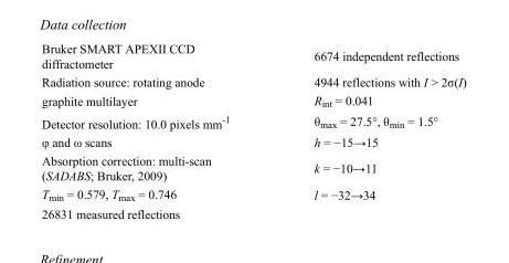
<table><tbody><tr><td>Bruker SMART APEXII CCD diffractometer</td><td>6674 independent reflections</td></tr><tr><td>Radiation source: rotating anode</td><td>4944 reflections with I &gt; 2σ(I)</td></tr><tr><td>graphite multilayer</td><td>R<sub>int</sub> = 0.041</td></tr><tr><td>Detector resolution: 10.0 pixels mm<sup>-1</sup></td><td>θ<sub>max</sub> = 27.5°, θ<sub>min</sub> = 1.5°</td></tr><tr><td>φ and ω scans</td><td>h = −15→15</td></tr><tr><td>Absorption correction: multi-scan (SADABS; Bruker, 2009)</td><td>k = −10→11</td></tr><tr><td>T<sub>min</sub> = 0.579, T<sub>max</sub> = 0.746</td><td>l = −32→34</td></tr><tr><td>26831 measured reflections</td><td></td></tr></tbody></table>